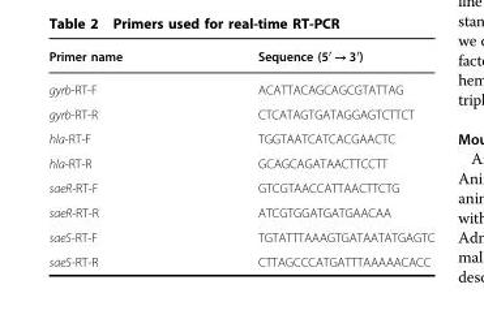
<table><thead><tr><td>Primer name</td><td>Sequence (5′ → 3′)</td></tr></thead><tbody><tr><td>gyrb-RT-F</td><td>ACATTACAGCAGCGTATTAG</td></tr><tr><td>gyrb-RT-R</td><td>CTCATAGTGATAGGAGTCTTCT</td></tr><tr><td>hla-RT-F</td><td>TGGTAATCATCACGAACTC</td></tr><tr><td>hla-RT-R</td><td>GCAGCAGATAACTTCCTT</td></tr><tr><td>saeR-RT-F</td><td>GTCGTAACCATTAACTTCTG</td></tr><tr><td>saeR-RT-R</td><td>ATCGTGGATGATGAACAA</td></tr><tr><td>saeS-RT-F</td><td>TGTATTTAAAGTGATAATATGAGTC</td></tr><tr><td>saeS-RT-R</td><td>CTTAGCCCATGATTTAAAAACACC</td></tr></tbody></table>